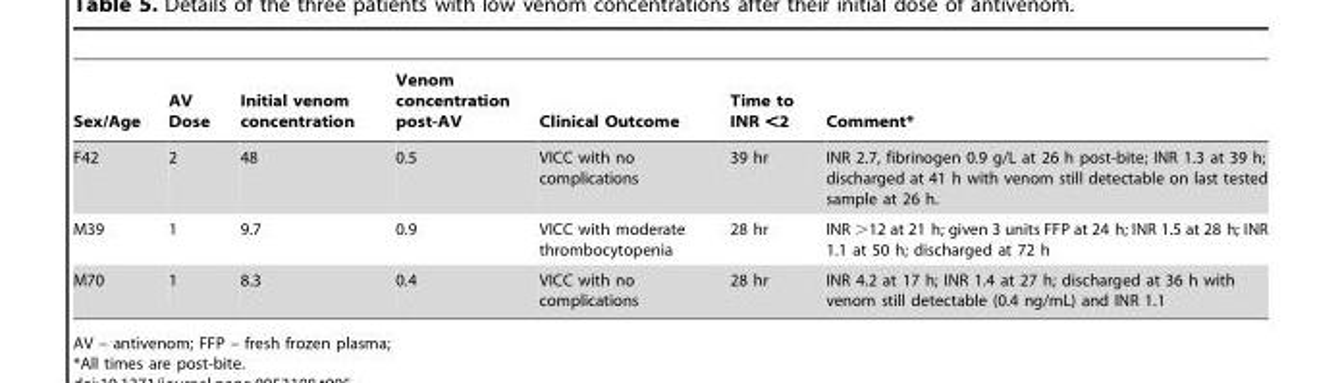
<table><thead><tr><td>Sex/Age</td><td>AV Dose</td><td>Initial venom concentration</td><td>Venom concentration post-AV</td><td>Clinical Outcome</td><td>Time to INR &lt;2</td><td>Comment*</td></tr></thead><tbody><tr><td>F42</td><td>2</td><td>48</td><td>0.5</td><td>VICC with no complications</td><td>39 hr</td><td>INR 2.7, fibrinogen 0.9 g/L at 26 h post-bite; INR 1.3 at 39 h; discharged at 41 h with venom still detectable on last tested sample at 26 h.</td></tr><tr><td>M39</td><td>1</td><td>9.7</td><td>0.9</td><td>VICC with moderate thrombocytopenia</td><td>28 hr</td><td>INR &gt;12 at 21 h; given 3 units FFP at 24 h; INR 1.5 at 28 h; INR 1.1 at 50 h; discharged at 72 h</td></tr><tr><td>M70</td><td>1</td><td>8.3</td><td>0.4</td><td>VICC with no complications</td><td>28 hr</td><td>INR 4.2 at 17 h; INR 1.4 at 27 h; discharged at 36 h with venom still detectable (0.4 ng/mL) and INR 1.1</td></tr></tbody></table>